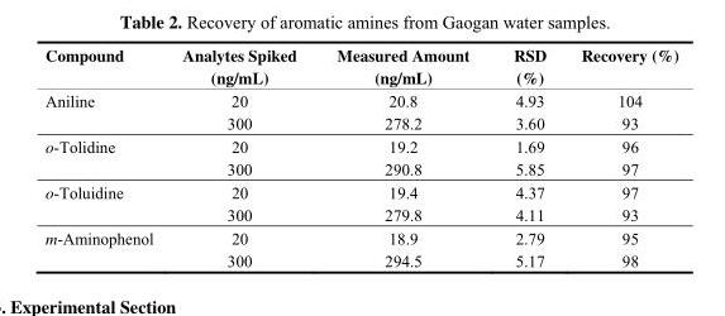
<table><thead><tr><td>Compound</td><td>Analytes Spiked (ng/mL)</td><td>Measured Amount (ng/mL)</td><td>RSD (%)</td><td>Recovery (%)</td></tr></thead><tbody><tr><td rowspan="2">Aniline</td><td>20</td><td>20.8</td><td>4.93</td><td>104</td></tr><tr><td>300</td><td>278.2</td><td>3.60</td><td>93</td></tr><tr><td rowspan="2">o-Tolidine</td><td>20</td><td>19.2</td><td>1.69</td><td>96</td></tr><tr><td>300</td><td>290.8</td><td>5.85</td><td>97</td></tr><tr><td rowspan="2">o-Toluidine</td><td>20</td><td>19.4</td><td>4.37</td><td>97</td></tr><tr><td>300</td><td>279.8</td><td>4.11</td><td>93</td></tr><tr><td rowspan="2">m-Aminophenol</td><td>20</td><td>18.9</td><td>2.79</td><td>95</td></tr><tr><td>300</td><td>294.5</td><td>5.17</td><td>98</td></tr></tbody></table>